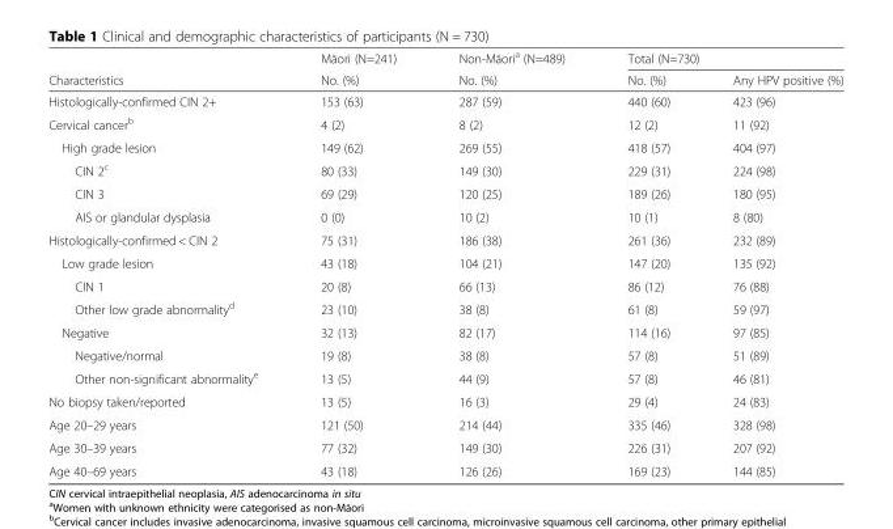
<table><thead><tr><td rowspan="2">Characteristics</td><td rowspan="2">Māori (N=241) No. (%)</td><td rowspan="2">Non-Māori<sup>a</sup> (N=489) No. (%)</td><td colspan="2">Total (N=730)</td></tr><tr><td>No. (%)</td><td>Any HPV positive (%)</td></tr></thead><tbody><tr><td>Histologically-confirmed CIN 2+</td><td>153 (63)</td><td>287 (59)</td><td>440 (60)</td><td>423 (96)</td></tr><tr><td>Cervical cancer<sup>b</sup></td><td>4 (2)</td><td>8 (2)</td><td>12 (2)</td><td>11 (92)</td></tr><tr><td>High grade lesion</td><td>149 (62)</td><td>269 (55)</td><td>418 (57)</td><td>404 (97)</td></tr><tr><td>CIN 2<sup>c</sup></td><td>80 (33)</td><td>149 (30)</td><td>229 (31)</td><td>224 (98)</td></tr><tr><td>CIN 3</td><td>69 (29)</td><td>120 (25)</td><td>189 (26)</td><td>180 (95)</td></tr><tr><td>AIS or glandular dysplasia</td><td>0 (0)</td><td>10 (2)</td><td>10 (1)</td><td>8 (80)</td></tr><tr><td>Histologically-confirmed &lt; CIN 2</td><td>75 (31)</td><td>186 (38)</td><td>261 (36)</td><td>232 (89)</td></tr><tr><td>Low grade lesion</td><td>43 (18)</td><td>104 (21)</td><td>147 (20)</td><td>135 (92)</td></tr><tr><td>CIN 1</td><td>20 (8)</td><td>66 (13)</td><td>86 (12)</td><td>76 (88)</td></tr><tr><td>Other low grade abnormality<sup>d</sup></td><td>23 (10)</td><td>38 (8)</td><td>61 (8)</td><td>59 (97)</td></tr><tr><td>Negative</td><td>32 (13)</td><td>82 (17)</td><td>114 (16)</td><td>97 (85)</td></tr><tr><td>Negative/normal</td><td>19 (8)</td><td>38 (8)</td><td>57 (8)</td><td>51 (89)</td></tr><tr><td>Other non-significant abnormality<sup>e</sup></td><td>13 (5)</td><td>44 (9)</td><td>57 (8)</td><td>46 (81)</td></tr><tr><td>No biopsy taken/reported</td><td>13 (5)</td><td>16 (3)</td><td>29 (4)</td><td>24 (83)</td></tr><tr><td>Age 20–29 years</td><td>121 (50)</td><td>214 (44)</td><td>335 (46)</td><td>328 (98)</td></tr><tr><td>Age 30–39 years</td><td>77 (32)</td><td>149 (30)</td><td>226 (31)</td><td>207 (92)</td></tr><tr><td>Age 40–69 years</td><td>43 (18)</td><td>126 (26)</td><td>169 (23)</td><td>144 (85)</td></tr></tbody></table>